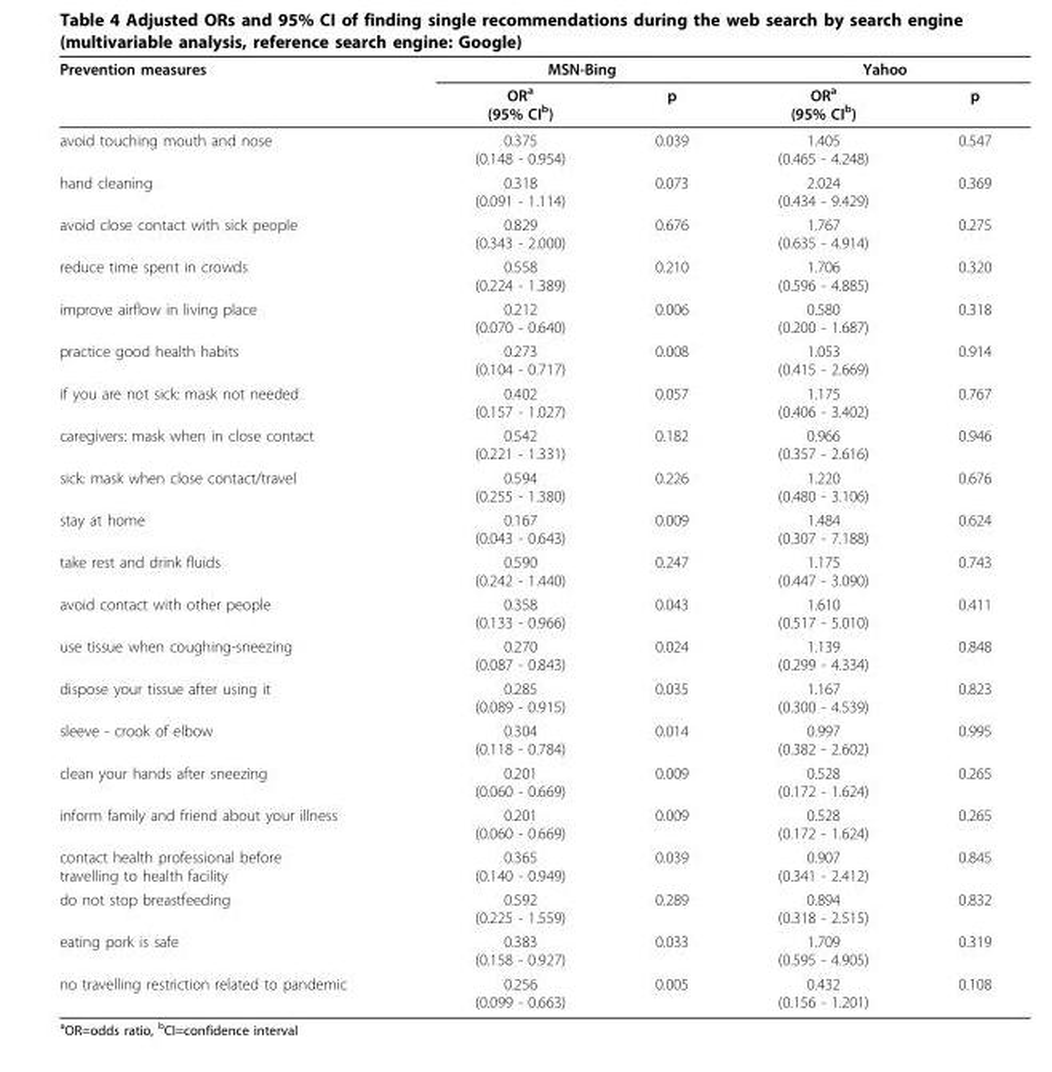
<table><thead><tr><td rowspan="2">Prevention measures</td><td colspan="2">MSN-Bing</td><td colspan="2">Yahoo</td></tr><tr><td>OR<sup>a</sup> (95% CI<sup>b</sup>)</td><td>p</td><td>OR<sup>a</sup> (95% CI<sup>b</sup>)</td><td>p</td></tr></thead><tbody><tr><td>avoid touching mouth and nose</td><td>0.375 (0.148 - 0.954)</td><td>0.039</td><td>1.405 (0.465 - 4.248)</td><td>0.547</td></tr><tr><td>hand cleaning</td><td>0.318 (0.091 - 1.114)</td><td>0.073</td><td>2.024 (0.434 - 9.429)</td><td>0.369</td></tr><tr><td>avoid close contact with sick people</td><td>0.829 (0.343 - 2.000)</td><td>0.676</td><td>1.767 (0.635 - 4.914)</td><td>0.275</td></tr><tr><td>reduce time spent in crowds</td><td>0.558 (0.224 - 1.389)</td><td>0.210</td><td>1.706 (0.596 - 4.885)</td><td>0.320</td></tr><tr><td>improve airflow in living place</td><td>0.212 (0.070 - 0.640)</td><td>0.006</td><td>0.580 (0.200 - 1.687)</td><td>0.318</td></tr><tr><td>practice good health habits</td><td>0.273 (0.104 - 0.717)</td><td>0.008</td><td>1.053 (0.415 - 2.669)</td><td>0.914</td></tr><tr><td>if you are not sick: mask not needed</td><td>0.402 (0.157 - 1.027)</td><td>0.057</td><td>1.175 (0.406 - 3.402)</td><td>0.767</td></tr><tr><td>caregivers: mask when in close contact</td><td>0.542 (0.221 - 1.331)</td><td>0.182</td><td>0.966 (0.357 - 2.616)</td><td>0.946</td></tr><tr><td>sick: mask when close contact/travel</td><td>0.594 (0.255 - 1.380)</td><td>0.226</td><td>1.220 (0.480 - 3.106)</td><td>0.676</td></tr><tr><td>stay at home</td><td>0.167 (0.043 - 0.643)</td><td>0.009</td><td>1.484 (0.307 - 7.188)</td><td>0.624</td></tr><tr><td>take rest and drink fluids</td><td>0.590 (0.242 - 1.440)</td><td>0.247</td><td>1.175 (0.447 - 3.090)</td><td>0.743</td></tr><tr><td>avoid contact with other people</td><td>0.358 (0.133 - 0.966)</td><td>0.043</td><td>1.610 (0.517 - 5.010)</td><td>0.411</td></tr><tr><td>use tissue when coughing-sneezing</td><td>0.270 (0.087 - 0.843)</td><td>0.024</td><td>1.139 (0.299 - 4.334)</td><td>0.848</td></tr><tr><td>dispose your tissue after using it</td><td>0.285 (0.089 - 0.915)</td><td>0.035</td><td>1.167 (0.300 - 4.539)</td><td>0.823</td></tr><tr><td>sleeve - crook of elbow</td><td>0.304 (0.118 - 0.784)</td><td>0.014</td><td>0.997 (0.382 - 2.602)</td><td>0.995</td></tr><tr><td>clean your hands after sneezing</td><td>0.201 (0.060 - 0.669)</td><td>0.009</td><td>0.528 (0.172 - 1.624)</td><td>0.265</td></tr><tr><td>inform family and friend about your illness</td><td>0.201 (0.060 - 0.669)</td><td>0.009</td><td>0.528 (0.172 - 1.624)</td><td>0.265</td></tr><tr><td>contact health professional before travelling to health facility</td><td>0.365 (0.140 - 0.949)</td><td>0.039</td><td>0.907 (0.341 - 2.412)</td><td>0.845</td></tr><tr><td>do not stop breastfeeding</td><td>0.592 (0.225 - 1.559)</td><td>0.289</td><td>0.894 (0.318 - 2.515)</td><td>0.832</td></tr><tr><td>eating pork is safe</td><td>0.383 (0.158 - 0.927)</td><td>0.033</td><td>1.709 (0.595 - 4.905)</td><td>0.319</td></tr><tr><td>no travelling restriction related to pandemic</td><td>0.256 (0.099 - 0.663)</td><td>0.005</td><td>0.432 (0.156 - 1.201)</td><td>0.108</td></tr></tbody></table>